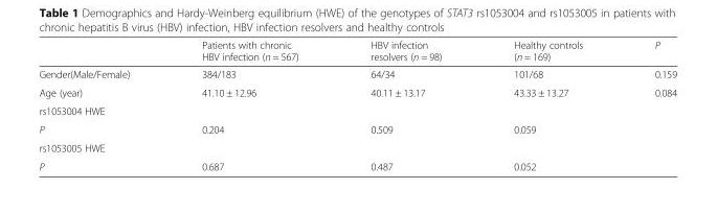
<table><thead><tr><td></td><td>Patients with chronic HBV infection (n = 567)</td><td>HBV infection resolvers (n = 98)</td><td>Healthy controls (n = 169)</td><td>P</td></tr></thead><tbody><tr><td>Gender(Male/Female)</td><td>384/183</td><td>64/34</td><td>101/68</td><td>0.159</td></tr><tr><td>Age (year)</td><td>41.10 ± 12.96</td><td>40.11 ± 13.17</td><td>43.33 ± 13.27</td><td>0.084</td></tr><tr><td colspan="5">rs1053004 HWE</td></tr><tr><td>P</td><td>0.204</td><td>0.509</td><td>0.059</td><td></td></tr><tr><td colspan="5">rs1053005 HWE</td></tr><tr><td>P</td><td>0.687</td><td>0.487</td><td>0.052</td><td></td></tr></tbody></table>